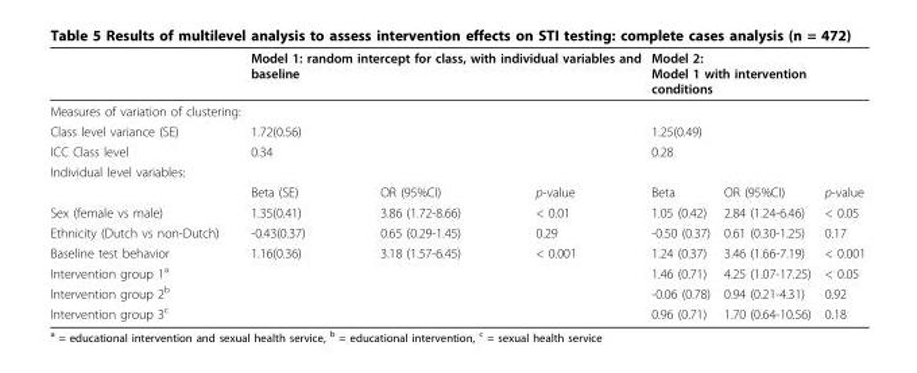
<table><thead><tr><td rowspan="2">Measures of variation of clustering:</td><td colspan="3">Model 1: random intercept for class, with individual variables and baseline</td><td colspan="3">Model 2: Model 1 with intervention conditions</td></tr><tr><td></td><td></td><td></td><td></td><td></td><td></td></tr></thead><tbody><tr><td>Class level variance (SE)</td><td>1.72(0.56)</td><td></td><td></td><td>1.25(0.49)</td><td></td><td></td></tr><tr><td>ICC Class level</td><td>0.34</td><td></td><td></td><td>0.28</td><td></td><td></td></tr><tr><td colspan="7">Individual level variables:</td></tr><tr><td></td><td>Beta (SE)</td><td>OR (95%CI)</td><td>p-value</td><td>Beta</td><td>OR (95%CI)</td><td>p-value</td></tr><tr><td>Sex (female vs male)</td><td>1.35(0.41)</td><td>3.86 (1.72-8.66)</td><td>&lt; 0.01</td><td>1.05 (0.42)</td><td>2.84 (1.24-6.46)</td><td>&lt; 0.05</td></tr><tr><td>Ethnicity (Dutch vs non-Dutch)</td><td>-0.43(0.37)</td><td>0.65 (0.29-1.45)</td><td>0.29</td><td>-0.50 (0.37)</td><td>0.61 (0.30-1.25)</td><td>0.17</td></tr><tr><td>Baseline test behavior</td><td>1.16(0.36)</td><td>3.18 (1.57-6.45)</td><td>&lt; 0.001</td><td>1.24 (0.37)</td><td>3.46 (1.66-7.19)</td><td>&lt; 0.001</td></tr><tr><td>Intervention group 1<sup>a</sup></td><td></td><td></td><td></td><td>1.46 (0.71)</td><td>4.25 (1.07-17.25)</td><td>&lt; 0.05</td></tr><tr><td>Intervention group 2<sup>b</sup></td><td></td><td></td><td></td><td>-0.06 (0.78)</td><td>0.94 (0.21-4.31)</td><td>0.92</td></tr><tr><td>Intervention group 3<sup>c</sup></td><td></td><td></td><td></td><td>0.96 (0.71)</td><td>1.70 (0.64-10.56)</td><td>0.18</td></tr></tbody></table>